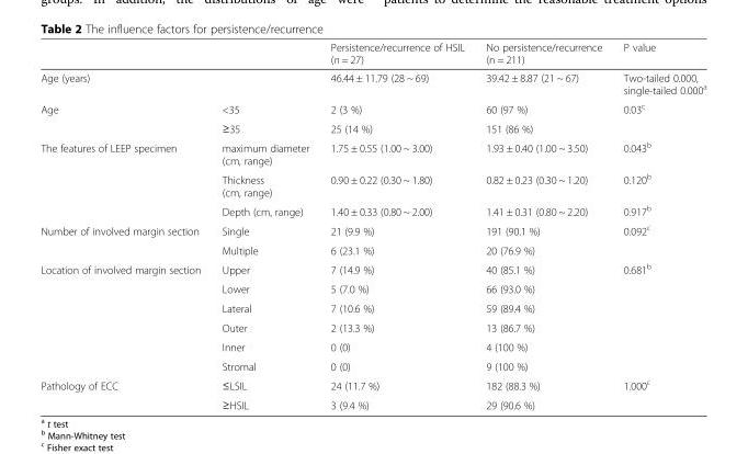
<table><thead><tr><td></td><td></td><td>Persistence/recurrence of HSIL (n = 27)</td><td>No persistence/recurrence (n = 211)</td><td>P value</td></tr></thead><tbody><tr><td colspan="2">Age (years)</td><td>46.44 ± 11.79 (28 ~ 69)</td><td>39.42 ± 8.87 (21 ~ 67)</td><td>Two-tailed 0.000, single-tailed 0.000<sup>a</sup></td></tr><tr><td rowspan="2">Age</td><td>&lt;35</td><td>2 (3 %)</td><td>60 (97 %)</td><td rowspan="2">0.03<sup>c</sup></td></tr><tr><td>≥35</td><td>25 (14 %)</td><td>151 (86 %)</td></tr><tr><td rowspan="3">The features of LEEP specimen</td><td>maximum diameter (cm, range)</td><td>1.75 ± 0.55 (1.00 ~ 3.00)</td><td>1.93 ± 0.40 (1.00 ~ 3.50)</td><td>0.043<sup>b</sup></td></tr><tr><td>Thickness (cm, range)</td><td>0.90 ± 0.22 (0.30 ~ 1.80)</td><td>0.82 ± 0.23 (0.30 ~ 1.20)</td><td>0.120<sup>b</sup></td></tr><tr><td>Depth (cm, range)</td><td>1.40 ± 0.33 (0.80 ~ 2.00)</td><td>1.41 ± 0.31 (0.80 ~ 2.20)</td><td>0.917<sup>b</sup></td></tr><tr><td rowspan="2">Number of involved margin section</td><td>Single</td><td>21 (9.9 %)</td><td>191 (90.1 %)</td><td rowspan="2">0.092<sup>c</sup></td></tr><tr><td>Multiple</td><td>6 (23.1 %)</td><td>20 (76.9 %)</td></tr><tr><td rowspan="6">Location of involved margin section</td><td>Upper</td><td>7 (14.9 %)</td><td>40 (85.1 %)</td><td rowspan="6">0.681<sup>b</sup></td></tr><tr><td>Lower</td><td>5 (7.0 %)</td><td>66 (93.0 %)</td></tr><tr><td>Lateral</td><td>7 (10.6 %)</td><td>59 (89.4 %)</td></tr><tr><td>Outer</td><td>2 (13.3 %)</td><td>13 (86.7 %)</td></tr><tr><td>Inner</td><td>0 (0)</td><td>4 (100 %)</td></tr><tr><td>Stromal</td><td>0 (0)</td><td>9 (100 %)</td></tr><tr><td rowspan="2">Pathology of ECC</td><td>≤LSIL</td><td>24 (11.7 %)</td><td>182 (88.3 %)</td><td rowspan="2">1.000<sup>c</sup></td></tr><tr><td>≥HSIL</td><td>3 (9.4 %)</td><td>29 (90.6 %)</td></tr></tbody></table>